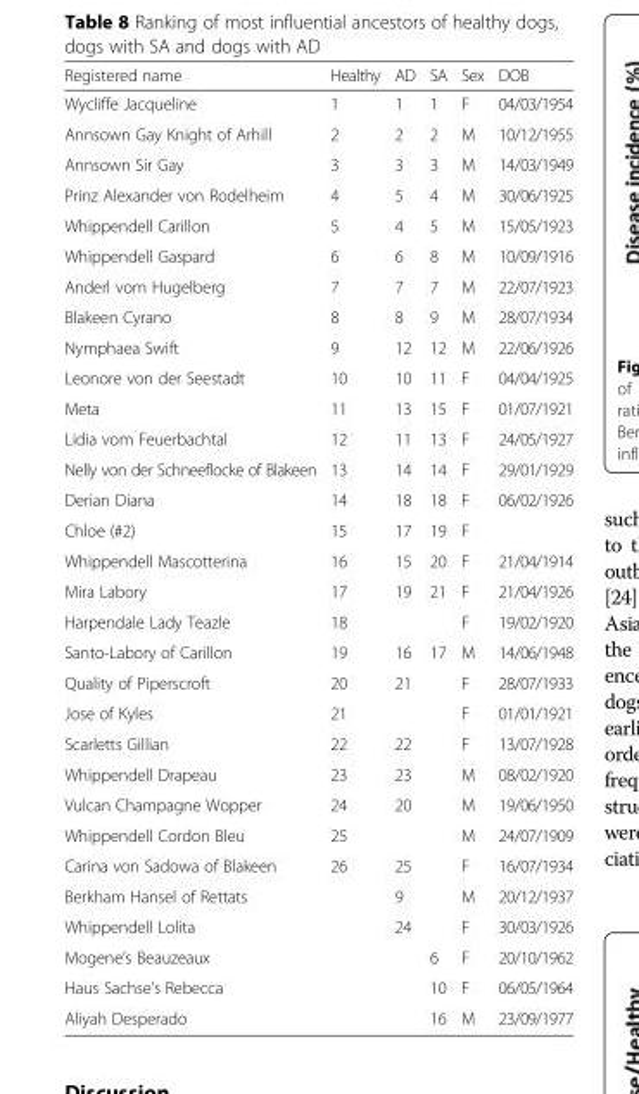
<table><thead><tr><td>Registered name</td><td>Healthy</td><td>AD</td><td>SA</td><td>Sex</td><td>DOB</td></tr></thead><tbody><tr><td>Wycliffe Jacqueline</td><td>1</td><td>1</td><td>1</td><td>F</td><td>04/03/1954</td></tr><tr><td>Annsown Gay Knight of Arhill</td><td>2</td><td>2</td><td>2</td><td>M</td><td>10/12/1955</td></tr><tr><td>Annsown Sir Gay</td><td>3</td><td>3</td><td>3</td><td>M</td><td>14/03/1949</td></tr><tr><td>Prinz Alexander von Rodelheim</td><td>4</td><td>5</td><td>4</td><td>M</td><td>30/06/1925</td></tr><tr><td>Whippendell Carillon</td><td>5</td><td>4</td><td>5</td><td>M</td><td>15/05/1923</td></tr><tr><td>Whippendell Gaspard</td><td>6</td><td>6</td><td>8</td><td>M</td><td>10/09/1916</td></tr><tr><td>Anderl vom Hugelberg</td><td>7</td><td>7</td><td>7</td><td>M</td><td>22/07/1923</td></tr><tr><td>Blakeen Cyrano</td><td>8</td><td>8</td><td>9</td><td>M</td><td>28/07/1934</td></tr><tr><td>Nymphaea Swift</td><td>9</td><td>12</td><td>12</td><td>M</td><td>22/06/1926</td></tr><tr><td>Leonore von der Seestadt</td><td>10</td><td>10</td><td>11</td><td>F</td><td>04/04/1925</td></tr><tr><td>Meta</td><td>11</td><td>13</td><td>15</td><td>F</td><td>01/07/1921</td></tr><tr><td>Lidia vom Feuerbachtal</td><td>12</td><td>11</td><td>13</td><td>F</td><td>24/05/1927</td></tr><tr><td>Nelly von der Schneeflocke of Blakeen</td><td>13</td><td>14</td><td>14</td><td>F</td><td>29/01/1929</td></tr><tr><td>Derian Diana</td><td>14</td><td>18</td><td>18</td><td>F</td><td>06/02/1926</td></tr><tr><td>Chloe (#2)</td><td>15</td><td>17</td><td>19</td><td>F</td><td></td></tr><tr><td>Whippendell Mascotterina</td><td>16</td><td>15</td><td>20</td><td>F</td><td>21/04/1914</td></tr><tr><td>Mira Labory</td><td>17</td><td>19</td><td>21</td><td>F</td><td>21/04/1926</td></tr><tr><td>Harpendale Lady Teazle</td><td>18</td><td></td><td></td><td>F</td><td>19/02/1920</td></tr><tr><td>Santo-Labory of Carillon</td><td>19</td><td>16</td><td>17</td><td>M</td><td>14/06/1948</td></tr><tr><td>Quality of Piperscroft</td><td>20</td><td>21</td><td></td><td>F</td><td>28/07/1933</td></tr><tr><td>Jose of Kyles</td><td>21</td><td></td><td></td><td>F</td><td>01/01/1921</td></tr><tr><td>Scarletts Gillian</td><td>22</td><td>22</td><td></td><td>F</td><td>13/07/1928</td></tr><tr><td>Whippendell Drapeau</td><td>23</td><td>23</td><td></td><td>M</td><td>08/02/1920</td></tr><tr><td>Vulcan Champagne Wopper</td><td>24</td><td>20</td><td></td><td>M</td><td>19/06/1950</td></tr><tr><td>Whippendell Cordon Bleu</td><td>25</td><td></td><td></td><td>M</td><td>24/07/1909</td></tr><tr><td>Carina von Sadowa of Blakeen</td><td>26</td><td>25</td><td></td><td>F</td><td>16/07/1934</td></tr><tr><td>Berkham Hansel of Rettats</td><td></td><td>9</td><td></td><td>M</td><td>20/12/1937</td></tr><tr><td>Whippendell Lolita</td><td></td><td>24</td><td></td><td>F</td><td>30/03/1926</td></tr><tr><td>Mogene’s Beauzeaux</td><td></td><td></td><td>6</td><td>F</td><td>20/10/1962</td></tr><tr><td>Haus Sachse’s Rebecca</td><td></td><td></td><td>10</td><td>F</td><td>06/05/1964</td></tr><tr><td>Aliyah Desperado</td><td></td><td></td><td>16</td><td>M</td><td>23/09/1977</td></tr></tbody></table>